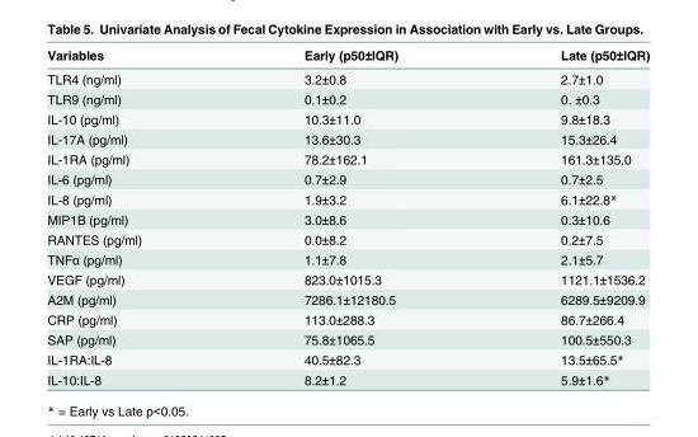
<table><thead><tr><td>Variables</td><td>Early (p50±IQR)</td><td>Late (p50±IQR)</td></tr></thead><tbody><tr><td>TLR4 (ng/ml)</td><td>3.2±0.8</td><td>2.7±1.0</td></tr><tr><td>TLR9 (ng/ml)</td><td>0.1±0.2</td><td>0. ±0.3</td></tr><tr><td>IL-10 (pg/ml)</td><td>10.3±11.0</td><td>9.8±18.3</td></tr><tr><td>IL-17A (pg/ml)</td><td>13.6±30.3</td><td>15.3±26.4</td></tr><tr><td>IL-1RA (pg/ml)</td><td>78.2±162.1</td><td>161.3±135.0</td></tr><tr><td>IL-6 (pg/ml)</td><td>0.7±2.9</td><td>0.7±2.5</td></tr><tr><td>IL-8 (pg/ml)</td><td>1.9±3.2</td><td>6.1±22.8*</td></tr><tr><td>MIP1B (pg/ml)</td><td>3.0±8.6</td><td>0.3±10.6</td></tr><tr><td>RANTES (pg/ml)</td><td>0.0±8.2</td><td>0.2±7.5</td></tr><tr><td>TNFα (pg/ml)</td><td>1.1±7.8</td><td>2.1±5.7</td></tr><tr><td>VEGF (pg/ml)</td><td>823.0±1015.3</td><td>1121.1±1536.2</td></tr><tr><td>A2M (pg/ml)</td><td>7286.1±12180.5</td><td>6289.5±9209.9</td></tr><tr><td>CRP (pg/ml)</td><td>113.0±288.3</td><td>86.7±266.4</td></tr><tr><td>SAP (pg/ml)</td><td>75.8±1065.5</td><td>100.5±550.3</td></tr><tr><td>IL-1RA:IL-8</td><td>40.5±82.3</td><td>13.5±65.5*</td></tr><tr><td>IL-10:IL-8</td><td>8.2±1.2</td><td>5.9±1.6*</td></tr></tbody></table>